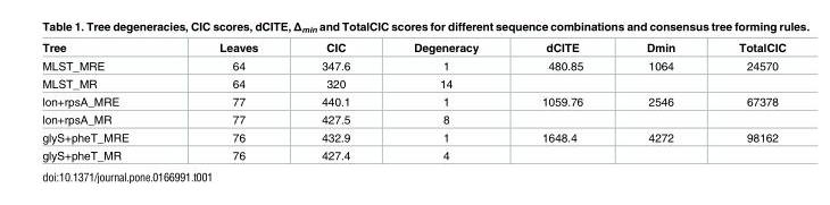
<table><thead><tr><td>Tree</td><td>Leaves</td><td>CIC</td><td>Degeneracy</td><td>dCITE</td><td>Dmin</td><td>TotalCIC</td></tr></thead><tbody><tr><td>MLST_MRE</td><td>64</td><td>347.6</td><td>1</td><td>480.85</td><td>1064</td><td>24570</td></tr><tr><td>MLST_MR</td><td>64</td><td>320</td><td>14</td><td></td><td></td><td></td></tr><tr><td>lon+rpsA_MRE</td><td>77</td><td>440.1</td><td>1</td><td>1059.76</td><td>2546</td><td>67378</td></tr><tr><td>lon+rpsA_MR</td><td>77</td><td>427.5</td><td>8</td><td></td><td></td><td></td></tr><tr><td>glyS+pheT_MRE</td><td>76</td><td>432.9</td><td>1</td><td>1648.4</td><td>4272</td><td>98162</td></tr><tr><td>glyS+pheT_MR</td><td>76</td><td>427.4</td><td>4</td><td></td><td></td><td></td></tr></tbody></table>